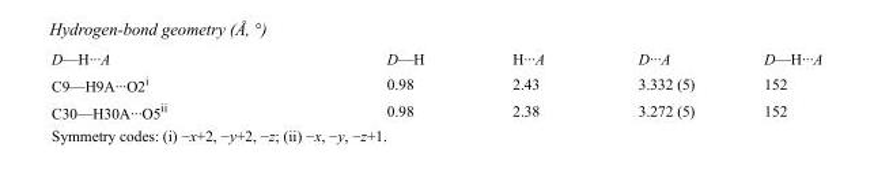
<table><tbody><tr><td>D—H···A</td><td>D—H</td><td>H···A</td><td>D···A</td><td>D—H···A</td></tr><tr><td>C9—H9A···O2<sup>i</sup></td><td>0.98</td><td>2.43</td><td>3.332 (5)</td><td>152</td></tr><tr><td>C30—H30A···O5<sup>ii</sup></td><td>0.98</td><td>2.38</td><td>3.272 (5)</td><td>152</td></tr></tbody></table>